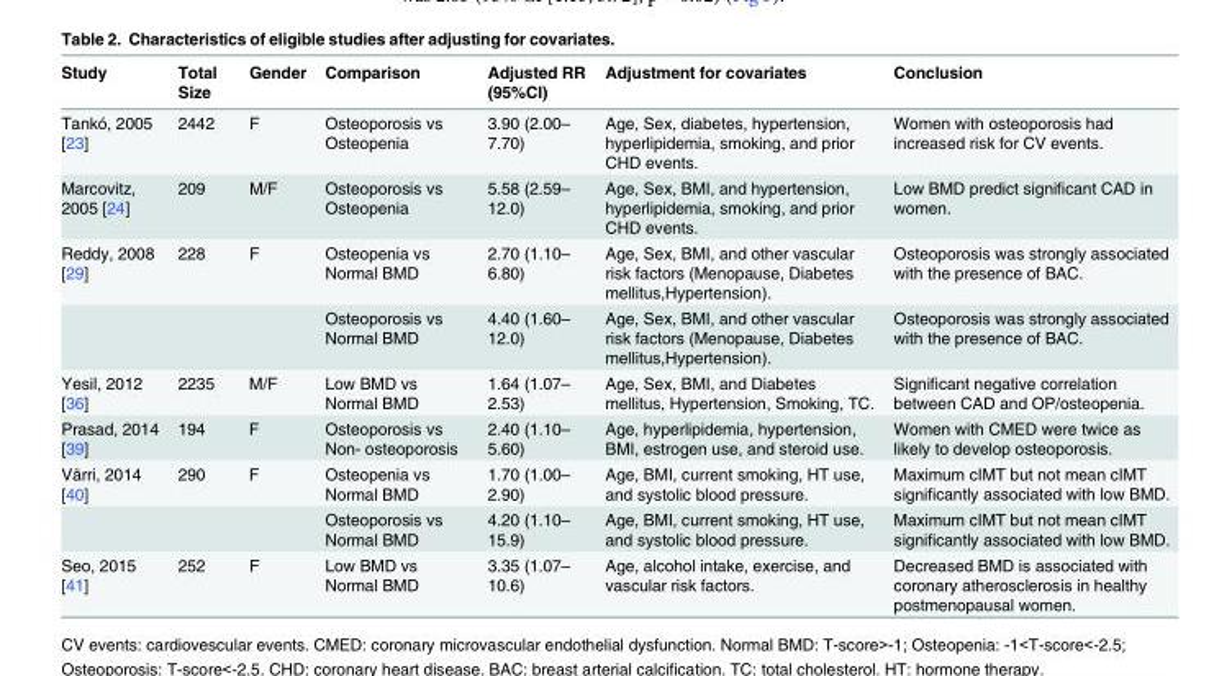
<table><thead><tr><td>Study</td><td>Total Size</td><td>Gender</td><td>Comparison</td><td>Adjusted RR (95%CI)</td><td>Adjustment for covariates</td><td>Conclusion</td></tr></thead><tbody><tr><td>Tankó, 2005 [23]</td><td>2442</td><td>F</td><td>Osteoporosis vs Osteopenia</td><td>3.90 (2.00– 7.70)</td><td>Age, Sex, diabetes, hypertension, hyperlipidemia, smoking, and prior CHD events.</td><td>Women with osteoporosis had increased risk for CV events.</td></tr><tr><td>Marcovitz, 2005 [24]</td><td>209</td><td>M/F</td><td>Osteoporosis vs Osteopenia</td><td>5.58 (2.59– 12.0)</td><td>Age, Sex, BMI, and hypertension, hyperlipidemia, smoking, and prior CHD events.</td><td>Low BMD predict significant CAD in women.</td></tr><tr><td rowspan="2">Reddy, 2008 [29]</td><td>228</td><td>F</td><td>Osteopenia vs Normal BMD</td><td>2.70 (1.10– 6.80)</td><td>Age, Sex, BMI, and other vascular risk factors (Menopause, Diabetes mellitus,Hypertension).</td><td>Osteoporosis was strongly associated with the presence of BAC.</td></tr><tr><td></td><td></td><td>Osteoporosis vs Normal BMD</td><td>4.40 (1.60– 12.0)</td><td>Age, Sex, BMI, and other vascular risk factors (Menopause, Diabetes mellitus,Hypertension).</td><td>Osteoporosis was strongly associated with the presence of BAC.</td></tr><tr><td>Yesil, 2012 [36]</td><td>2235</td><td>M/F</td><td>Low BMD vs Normal BMD</td><td>1.64 (1.07– 2.53)</td><td>Age, Sex, BMI, and Diabetes mellitus, Hypertension, Smoking, TC.</td><td>Significant negative correlation between CAD and OP/osteopenia.</td></tr><tr><td>Prasad, 2014 [39]</td><td>194</td><td>F</td><td>Osteoporosis vs Non- osteoporosis</td><td>2.40 (1.10– 5.60)</td><td>Age, hyperlipidemia, hypertension, BMI, estrogen use, and steroid use.</td><td>Women with CMED were twice as likely to develop osteoporosis.</td></tr><tr><td rowspan="2">Värri, 2014 [40]</td><td>290</td><td>F</td><td>Osteopenia vs Normal BMD</td><td>1.70 (1.00– 2.90)</td><td>Age, BMI, current smoking, HT use, and systolic blood pressure.</td><td>Maximum cIMT but not mean cIMT significantly associated with low BMD.</td></tr><tr><td></td><td></td><td>Osteoporosis vs Normal BMD</td><td>4.20 (1.10– 15.9)</td><td>Age, BMI, current smoking, HT use, and systolic blood pressure.</td><td>Maximum cIMT but not mean cIMT significantly associated with low BMD.</td></tr><tr><td>Seo, 2015 [41]</td><td>252</td><td>F</td><td>Low BMD vs Normal BMD</td><td>3.35 (1.07– 10.6)</td><td>Age, alcohol intake, exercise, and vascular risk factors.</td><td>Decreased BMD is associated with coronary atherosclerosis in healthy postmenopausal women.</td></tr></tbody></table>